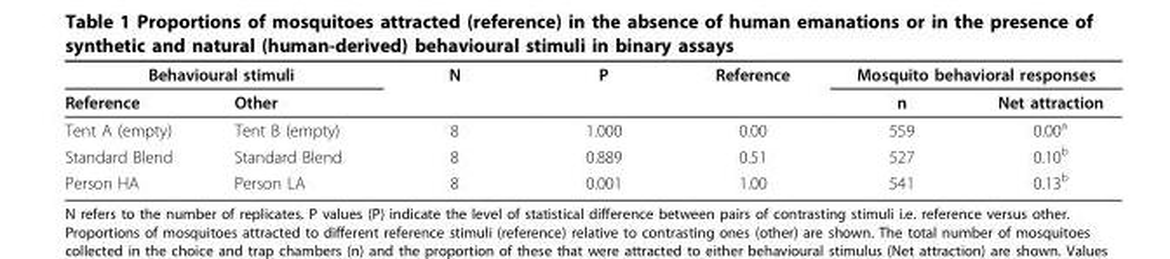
<table><thead><tr><td colspan="2">Behavioural stimuli</td><td rowspan="2">N</td><td rowspan="2">P</td><td rowspan="2">Reference</td><td colspan="2">Mosquito behavioral responses</td></tr><tr><td>Reference</td><td>Other</td><td>n</td><td>Net attraction</td></tr></thead><tbody><tr><td>Tent A (empty)</td><td>Tent B (empty)</td><td>8</td><td>1.000</td><td>0.00</td><td>559</td><td>0.00<sup>a</sup></td></tr><tr><td>Standard Blend</td><td>Standard Blend</td><td>8</td><td>0.889</td><td>0.51</td><td>527</td><td>0.10<sup>b</sup></td></tr><tr><td>Person HA</td><td>Person LA</td><td>8</td><td>0.001</td><td>1.00</td><td>541</td><td>0.13<sup>b</sup></td></tr></tbody></table>